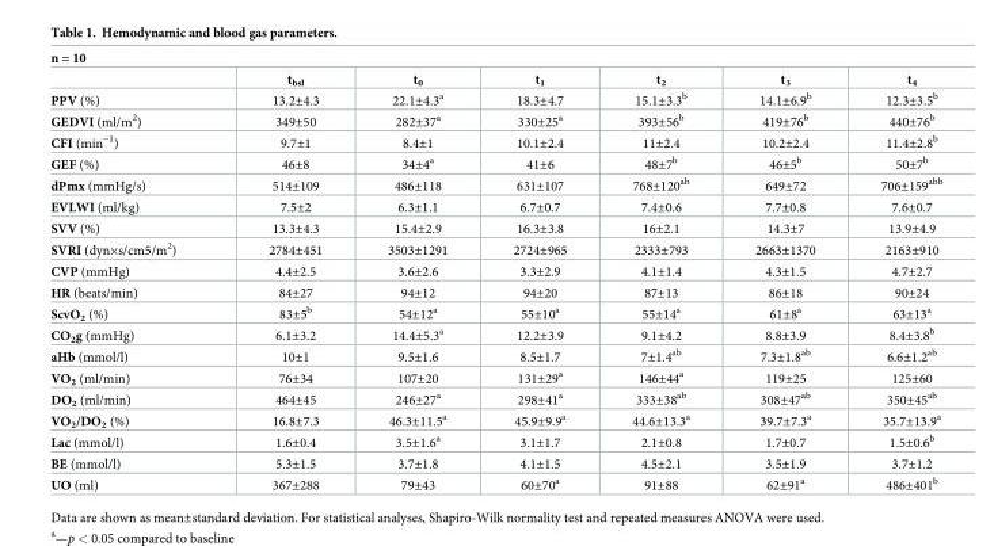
<table><thead><tr><td colspan="7">n = 10</td></tr><tr><td></td><td>t<sub>bsl</sub></td><td>t<sub>0</sub></td><td>t<sub>1</sub></td><td>t<sub>2</sub></td><td>t<sub>3</sub></td><td>t<sub>4</sub></td></tr></thead><tbody><tr><td>PPV (%)</td><td>13.2±4.3</td><td>22.1±4.3<sup>a</sup></td><td>18.3±4.7</td><td>15.1±3.3<sup>b</sup></td><td>14.1±6.9<sup>b</sup></td><td>12.3±3.5<sup>b</sup></td></tr><tr><td>GEDVI (ml/m<sup>2</sup>)</td><td>349±50</td><td>282±37<sup>a</sup></td><td>330±25<sup>a</sup></td><td>393±56<sup>b</sup></td><td>419±76<sup>b</sup></td><td>440±76<sup>b</sup></td></tr><tr><td>CFI (min<sup>−1</sup>)</td><td>9.7±1</td><td>8.4±1</td><td>10.1±2.4</td><td>11±2.4</td><td>10.2±2.4</td><td>11.4±2.8<sup>b</sup></td></tr><tr><td>GEF (%)</td><td>46±8</td><td>34±4<sup>a</sup></td><td>41±6</td><td>48±7<sup>b</sup></td><td>46±5<sup>b</sup></td><td>50±7<sup>b</sup></td></tr><tr><td>dPmx (mmHg/s)</td><td>514±109</td><td>486±118</td><td>631±107</td><td>768±120<sup>ab</sup></td><td>649±72</td><td>706±159<sup>abb</sup></td></tr><tr><td>EVLWI (ml/kg)</td><td>7.5±2</td><td>6.3±1.1</td><td>6.7±0.7</td><td>7.4±0.6</td><td>7.7±0.8</td><td>7.6±0.7</td></tr><tr><td>SVV (%)</td><td>13.3±4.3</td><td>15.4±2.9</td><td>16.3±3.8</td><td>16±2.1</td><td>14.3±7</td><td>13.9±4.9</td></tr><tr><td>SVRI (dyn×s/cm5/m<sup>2</sup>)</td><td>2784±451</td><td>3503±1291</td><td>2724±965</td><td>2333±793</td><td>2663±1370</td><td>2163±910</td></tr><tr><td>CVP (mmHg)</td><td>4.4±2.5</td><td>3.6±2.6</td><td>3.3±2.9</td><td>4.1±1.4</td><td>4.3±1.5</td><td>4.7±2.7</td></tr><tr><td>HR (beats/min)</td><td>84±27</td><td>94±12</td><td>94±20</td><td>87±13</td><td>86±18</td><td>90±24</td></tr><tr><td>ScvO<sub>2</sub> (%)</td><td>83±5<sup>b</sup></td><td>54±12<sup>a</sup></td><td>55±10<sup>a</sup></td><td>55±14<sup>a</sup></td><td>61±8<sup>a</sup></td><td>63±13<sup>a</sup></td></tr><tr><td>CO<sub>2</sub>g (mmHg)</td><td>6.1±3.2</td><td>14.4±5.3<sup>a</sup></td><td>12.2±3.9</td><td>9.1±4.2</td><td>8.8±3.9</td><td>8.4±3.8<sup>b</sup></td></tr><tr><td>aHb (mmol/l)</td><td>10±1</td><td>9.5±1.6</td><td>8.5±1.7</td><td>7±1.4<sup>ab</sup></td><td>7.3±1.8<sup>ab</sup></td><td>6.6±1.2<sup>ab</sup></td></tr><tr><td>VO<sub>2</sub> (ml/min)</td><td>76±34</td><td>107±20</td><td>131±29<sup>a</sup></td><td>146±44<sup>a</sup></td><td>119±25</td><td>125±60</td></tr><tr><td>DO<sub>2</sub> (ml/min)</td><td>464±45</td><td>246±27<sup>a</sup></td><td>298±41<sup>a</sup></td><td>333±38<sup>ab</sup></td><td>308±47<sup>ab</sup></td><td>350±45<sup>ab</sup></td></tr><tr><td>VO<sub>2</sub>/DO<sub>2</sub> (%)</td><td>16.8±7.3</td><td>46.3±11.5<sup>a</sup></td><td>45.9±9.9<sup>a</sup></td><td>44.6±13.3<sup>a</sup></td><td>39.7±7.3<sup>a</sup></td><td>35.7±13.9<sup>a</sup></td></tr><tr><td>Lac (mmol/l)</td><td>1.6±0.4</td><td>3.5±1.6<sup>a</sup></td><td>3.1±1.7</td><td>2.1±0.8</td><td>1.7±0.7</td><td>1.5±0.6<sup>b</sup></td></tr><tr><td>BE (mmol/l)</td><td>5.3±1.5</td><td>3.7±1.8</td><td>4.1±1.5</td><td>4.5±2.1</td><td>3.5±1.9</td><td>3.7±1.2</td></tr><tr><td>UO (ml)</td><td>367±288</td><td>79±43</td><td>60±70<sup>a</sup></td><td>91±88</td><td>62±91<sup>a</sup></td><td>486±401<sup>b</sup></td></tr></tbody></table>